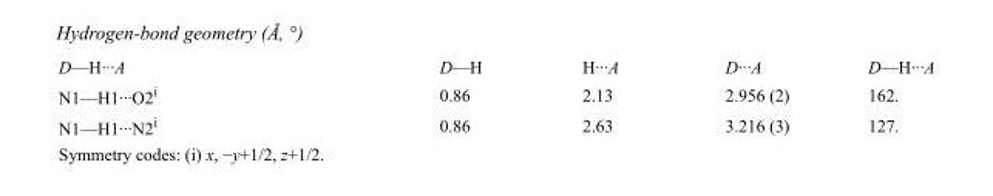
<table><tbody><tr><td>D—H···A</td><td>D—H</td><td>H···A</td><td>D···A</td><td>D—H···A</td></tr><tr><td>N1—H1···O2<sup>i</sup></td><td>0.86</td><td>2.13</td><td>2.956 (2)</td><td>162.</td></tr><tr><td>N1—H1···N2<sup>i</sup></td><td>0.86</td><td>2.63</td><td>3.216 (3)</td><td>127.</td></tr></tbody></table>